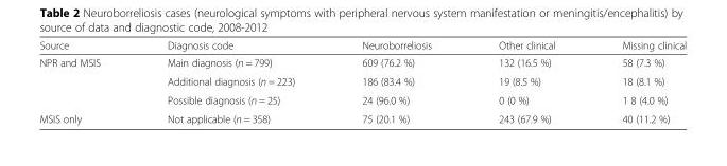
<table><thead><tr><td>Source</td><td>Diagnosis code</td><td>Neuroborreliosis</td><td>Other clinical</td><td>Missing clinical</td></tr></thead><tbody><tr><td rowspan="3">NPR and MSIS</td><td>Main diagnosis (n = 799)</td><td>609 (76.2 %)</td><td>132 (16.5 %)</td><td>58 (7.3 %)</td></tr><tr><td>Additional diagnosis (n = 223)</td><td>186 (83.4 %)</td><td>19 (8.5 %)</td><td>18 (8.1 %)</td></tr><tr><td>Possible diagnosis (n = 25)</td><td>24 (96.0 %)</td><td>0 (0 %)</td><td>1 8 (4.0 %)</td></tr><tr><td>MSIS only</td><td>Not applicable (n = 358)</td><td>75 (20.1 %)</td><td>243 (67.9 %)</td><td>40 (11.2 %)</td></tr></tbody></table>